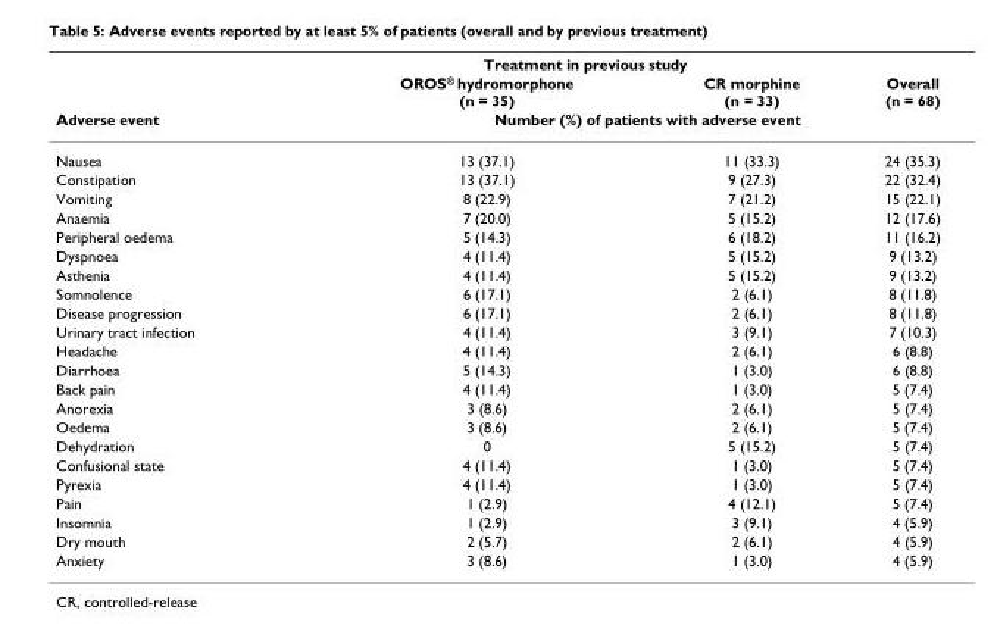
<table><thead><tr><td rowspan="3">Adverse event</td><td colspan="2">Treatment in previous study</td><td rowspan="2">Overall (n = 68)</td></tr><tr><td>OROS® hydromorphone (n = 35)</td><td>CR morphine (n = 33)</td></tr><tr><td colspan="3">Number (%) of patients with adverse event</td></tr></thead><tbody><tr><td>Nausea</td><td>13 (37.1)</td><td>11 (33.3)</td><td>24 (35.3)</td></tr><tr><td>Constipation</td><td>13 (37.1)</td><td>9 (27.3)</td><td>22 (32.4)</td></tr><tr><td>Vomiting</td><td>8 (22.9)</td><td>7 (21.2)</td><td>15 (22.1)</td></tr><tr><td>Anaemia</td><td>7 (20.0)</td><td>5 (15.2)</td><td>12 (17.6)</td></tr><tr><td>Peripheral oedema</td><td>5 (14.3)</td><td>6 (18.2)</td><td>11 (16.2)</td></tr><tr><td>Dyspnoea</td><td>4 (11.4)</td><td>5 (15.2)</td><td>9 (13.2)</td></tr><tr><td>Asthenia</td><td>4 (11.4)</td><td>5 (15.2)</td><td>9 (13.2)</td></tr><tr><td>Somnolence</td><td>6 (17.1)</td><td>2 (6.1)</td><td>8 (11.8)</td></tr><tr><td>Disease progression</td><td>6 (17.1)</td><td>2 (6.1)</td><td>8 (11.8)</td></tr><tr><td>Urinary tract infection</td><td>4 (11.4)</td><td>3 (9.1)</td><td>7 (10.3)</td></tr><tr><td>Headache</td><td>4 (11.4)</td><td>2 (6.1)</td><td>6 (8.8)</td></tr><tr><td>Diarrhoea</td><td>5 (14.3)</td><td>1 (3.0)</td><td>6 (8.8)</td></tr><tr><td>Back pain</td><td>4 (11.4)</td><td>1 (3.0)</td><td>5 (7.4)</td></tr><tr><td>Anorexia</td><td>3 (8.6)</td><td>2 (6.1)</td><td>5 (7.4)</td></tr><tr><td>Oedema</td><td>3 (8.6)</td><td>2 (6.1)</td><td>5 (7.4)</td></tr><tr><td>Dehydration</td><td>0</td><td>5 (15.2)</td><td>5 (7.4)</td></tr><tr><td>Confusional state</td><td>4 (11.4)</td><td>1 (3.0)</td><td>5 (7.4)</td></tr><tr><td>Pyrexia</td><td>4 (11.4)</td><td>1 (3.0)</td><td>5 (7.4)</td></tr><tr><td>Pain</td><td>1 (2.9)</td><td>4 (12.1)</td><td>5 (7.4)</td></tr><tr><td>Insomnia</td><td>1 (2.9)</td><td>3 (9.1)</td><td>4 (5.9)</td></tr><tr><td>Dry mouth</td><td>2 (5.7)</td><td>2 (6.1)</td><td>4 (5.9)</td></tr><tr><td>Anxiety</td><td>3 (8.6)</td><td>1 (3.0)</td><td>4 (5.9)</td></tr></tbody></table>